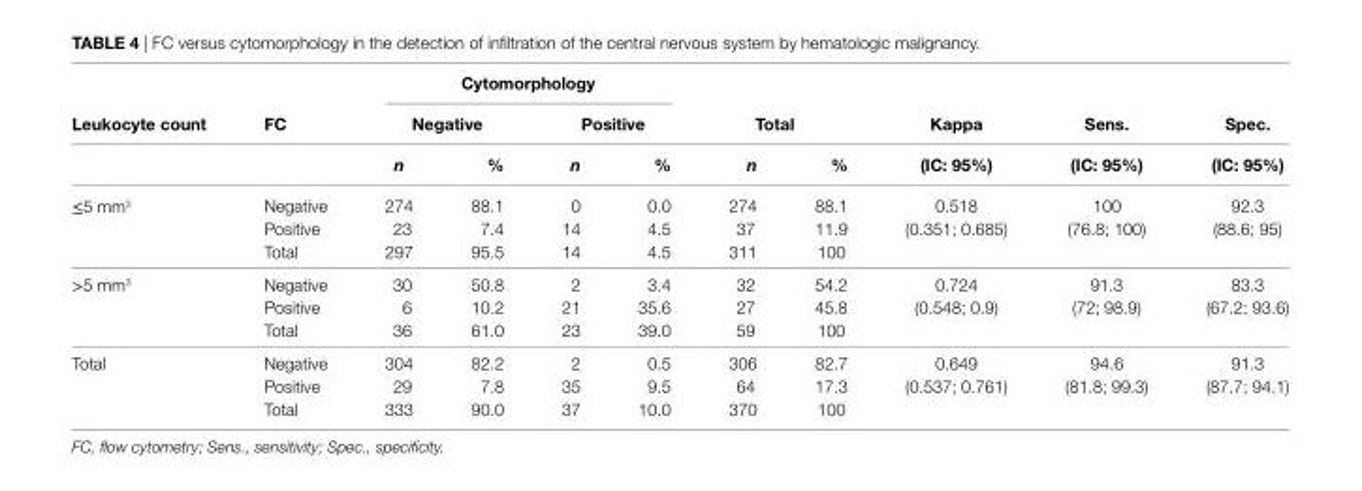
<table><thead><tr><td rowspan="3">leukocyte count</td><td rowspan="3">Fc</td><td colspan="4">cytomorphology</td><td></td><td></td><td rowspan="3">Kappa (ic: 95%)</td><td rowspan="3">sens. (ic: 95%)</td><td rowspan="3">spec. (ic: 95%)</td></tr><tr><td colspan="2">negative</td><td colspan="2">Positive</td><td colspan="2">Total</td></tr><tr><td>n</td><td>%</td><td>n</td><td>%</td><td>n</td><td>%</td></tr></thead><tbody><tr><td rowspan="3">≤5 mm<sup>3</sup></td><td>Negative</td><td>274</td><td>88.1</td><td>0</td><td>0.0</td><td>274</td><td>88.1</td><td>0.518</td><td>100</td><td>92.3</td></tr><tr><td>Positive</td><td>23</td><td>7.4</td><td>14</td><td>4.5</td><td>37</td><td>11.9</td><td>(0.351; 0.685)</td><td>(76.8; 100)</td><td>(88.6; 95)</td></tr><tr><td>Total</td><td>297</td><td>95.5</td><td>14</td><td>4.5</td><td>311</td><td>100</td><td></td><td></td><td></td></tr><tr><td rowspan="3">&gt;5 mm<sup>3</sup></td><td>Negative</td><td>30</td><td>50.8</td><td>2</td><td>3.4</td><td>32</td><td>54.2</td><td>0.724</td><td>91.3</td><td>83.3</td></tr><tr><td>Positive</td><td>6</td><td>10.2</td><td>21</td><td>35.6</td><td>27</td><td>45.8</td><td>(0.548; 0.9)</td><td>(72; 98.9)</td><td>(67.2; 93.6)</td></tr><tr><td>Total</td><td>36</td><td>61.0</td><td>23</td><td>39.0</td><td>59</td><td>100</td><td></td><td></td><td></td></tr><tr><td rowspan="3">Total</td><td>Negative</td><td>304</td><td>82.2</td><td>2</td><td>0.5</td><td>306</td><td>82.7</td><td>0.649</td><td>94.6</td><td>91.3</td></tr><tr><td>Positive</td><td>29</td><td>7.8</td><td>35</td><td>9.5</td><td>64</td><td>17.3</td><td>(0.537; 0.761)</td><td>(81.8; 99.3)</td><td>(87.7; 94.1)</td></tr><tr><td>Total</td><td>333</td><td>90.0</td><td>37</td><td>10.0</td><td>370</td><td>100</td><td></td><td></td><td></td></tr></tbody></table>